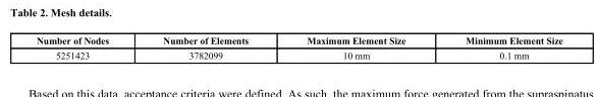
<table><thead><tr><td>Number of Nodes</td><td>Number of Elements</td><td>Maximum Element Size</td><td>Minimum Element Size</td></tr></thead><tbody><tr><td>5251423</td><td>3782099</td><td>10 mm</td><td>0.1 mm</td></tr></tbody></table>